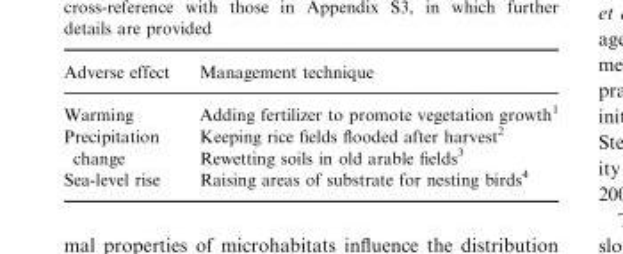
<table><thead><tr><td>Adverse effect</td><td>Management technique</td></tr></thead><tbody><tr><td>Warming</td><td>Adding fertilizer to promote vegetation growth<sup>1</sup></td></tr><tr><td rowspan="2">Precipitation change</td><td>Keeping rice fields flooded after harvest<sup>2</sup></td></tr><tr><td>Rewetting soils in old arable fields<sup>3</sup></td></tr><tr><td>Sea-level rise</td><td>Raising areas of substrate for nesting birds<sup>4</sup></td></tr></tbody></table>